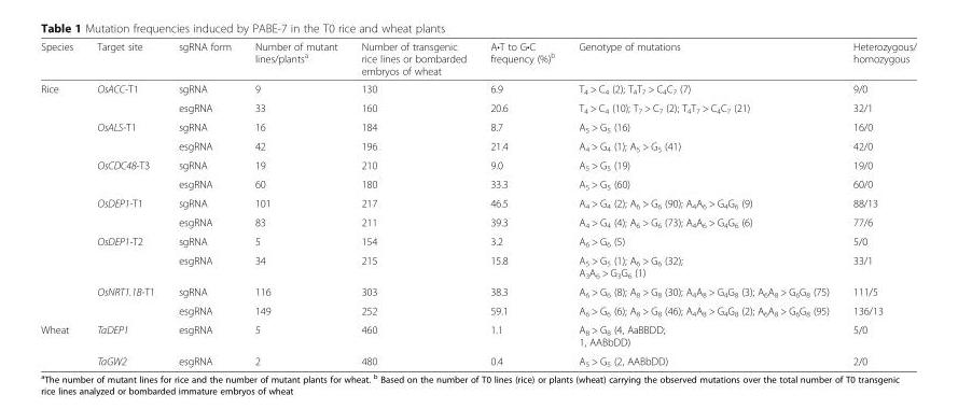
<table><thead><tr><td>Species</td><td>Target site</td><td>sgRNA form</td><td>Number of mutant lines/plants<sup>a</sup></td><td>Number of transgenic rice lines or bombarded embryos of wheat</td><td>A•T to G•C frequency (%)<sup>b</sup></td><td>Genotype of mutations</td><td>Heterozygous/ homozygous</td></tr></thead><tbody><tr><td rowspan="12">Rice</td><td rowspan="2">OsACC-T1</td><td>sgRNA</td><td>9</td><td>130</td><td>6.9</td><td>T<sub>4</sub> &gt; C<sub>4</sub> (2); T<sub>4</sub>T<sub>7</sub> &gt; C<sub>4</sub>C<sub>7</sub> (7)</td><td>9/0</td></tr><tr><td>esgRNA</td><td>33</td><td>160</td><td>20.6</td><td>T<sub>4</sub> &gt; C<sub>4</sub> (10); T<sub>7</sub> &gt; C<sub>7</sub> (2); T<sub>4</sub>T<sub>7</sub> &gt; C<sub>4</sub>C<sub>7</sub> (21)</td><td>32/1</td></tr><tr><td rowspan="2">OsALS-T1</td><td>sgRNA</td><td>16</td><td>184</td><td>8.7</td><td>A<sub>5</sub> &gt; G<sub>5</sub> (16)</td><td>16/0</td></tr><tr><td>esgRNA</td><td>42</td><td>196</td><td>21.4</td><td>A<sub>4</sub> &gt; G<sub>4</sub> (1); A<sub>5</sub> &gt; G<sub>5</sub> (41)</td><td>42/0</td></tr><tr><td rowspan="2">OsCDC48-T3</td><td>sgRNA</td><td>19</td><td>210</td><td>9.0</td><td>A<sub>5</sub> &gt; G<sub>5</sub> (19)</td><td>19/0</td></tr><tr><td>esgRNA</td><td>60</td><td>180</td><td>33.3</td><td>A<sub>5</sub> &gt; G<sub>5</sub> (60)</td><td>60/0</td></tr><tr><td rowspan="2">OsDEP1-T1</td><td>sgRNA</td><td>101</td><td>217</td><td>46.5</td><td>A<sub>4</sub> &gt; G<sub>4</sub> (2); A<sub>6</sub> &gt; G<sub>6</sub> (90); A<sub>4</sub>A<sub>6</sub> &gt; G<sub>4</sub>G<sub>6</sub> (9)</td><td>88/13</td></tr><tr><td>esgRNA</td><td>83</td><td>211</td><td>39.3</td><td>A<sub>4</sub> &gt; G<sub>4</sub> (4); A<sub>6</sub> &gt; G<sub>6</sub> (73); A<sub>4</sub>A<sub>6</sub> &gt; G<sub>4</sub>G<sub>6</sub> (6)</td><td>77/6</td></tr><tr><td rowspan="2">OsDEP1-T2</td><td>sgRNA</td><td>5</td><td>154</td><td>3.2</td><td>A<sub>6</sub> &gt; G<sub>6</sub> (5)</td><td>5/0</td></tr><tr><td>esgRNA</td><td>34</td><td>215</td><td>15.8</td><td>A<sub>5</sub> &gt; G<sub>5</sub> (1); A<sub>6</sub> &gt; G<sub>6</sub> (32); A<sub>3</sub>A<sub>6</sub> &gt; G<sub>3</sub>G<sub>6</sub> (1)</td><td>33/1</td></tr><tr><td rowspan="2">OsNRT1.1B-T1</td><td>sgRNA</td><td>116</td><td>303</td><td>38.3</td><td>A<sub>6</sub> &gt; G<sub>6</sub> (8); A<sub>8</sub> &gt; G<sub>8</sub> (30); A<sub>4</sub>A<sub>8</sub> &gt; G<sub>4</sub>G<sub>8</sub> (3); A<sub>6</sub>A<sub>8</sub> &gt; G<sub>6</sub>G<sub>8</sub> (75)</td><td>111/5</td></tr><tr><td>esgRNA</td><td>149</td><td>252</td><td>59.1</td><td>A<sub>6</sub> &gt; G<sub>6</sub> (6); A<sub>8</sub> &gt; G<sub>8</sub> (46); A<sub>4</sub>A<sub>8</sub> &gt; G<sub>4</sub>G<sub>8</sub> (2); A<sub>6</sub>A<sub>8</sub> &gt; G<sub>6</sub>G<sub>8</sub> (95)</td><td>136/13</td></tr><tr><td rowspan="2">Wheat</td><td>TaDEP1</td><td>esgRNA</td><td>5</td><td>460</td><td>1.1</td><td>A<sub>8</sub> &gt; G<sub>8</sub> (4, AaBBDD; 1, AABbDD)</td><td>5/0</td></tr><tr><td>TaGW2</td><td>esgRNA</td><td>2</td><td>480</td><td>0.4</td><td>A<sub>5</sub> &gt; G<sub>5</sub> (2, AABbDD)</td><td>2/0</td></tr></tbody></table>